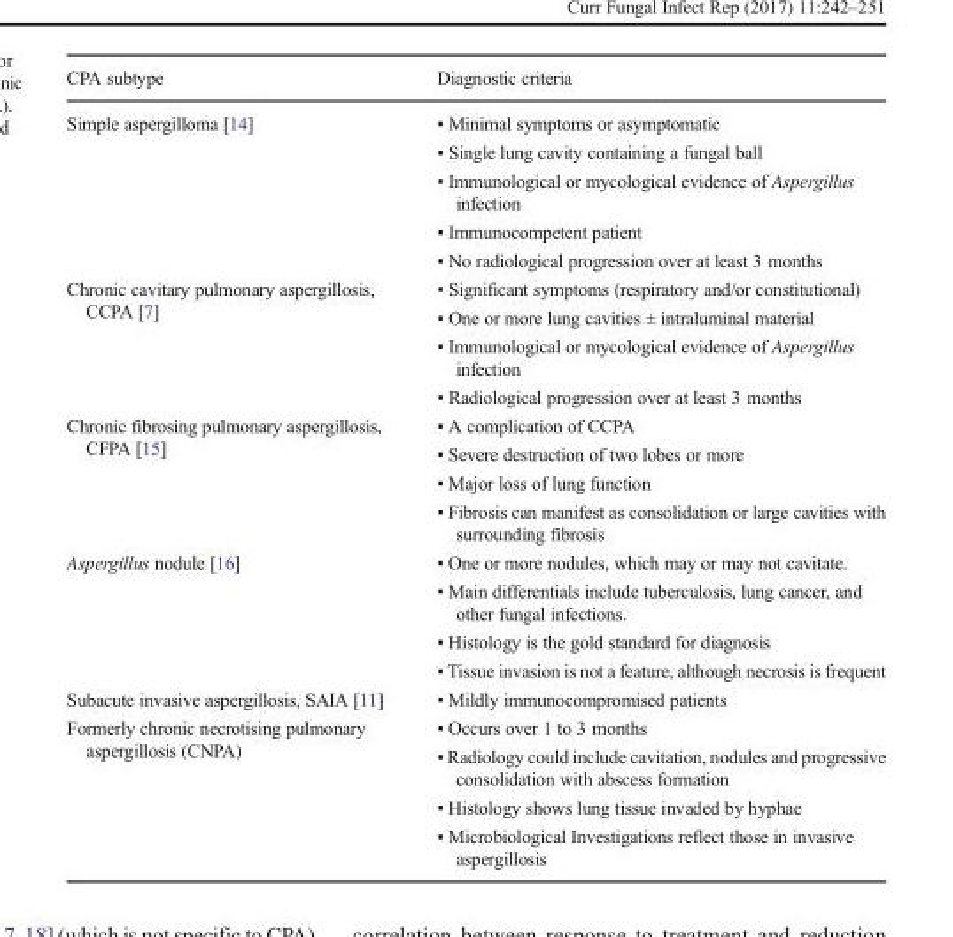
<table><thead><tr><td>CPA subtype</td><td>Diagnostic criteria</td></tr></thead><tbody><tr><td>Simple aspergilloma [14]</td><td>▪ Minimal symptoms or asymptomatic ▪ Single lung cavity containing a fungal ball ▪ Immunological or mycological evidence of Aspergillus infection ▪ Immunocompetent patient ▪ No radiological progression over at least 3 months</td></tr><tr><td>Chronic cavitary pulmonary aspergillosis, CCPA [7]</td><td>▪ Significant symptoms (respiratory and/or constitutional) ▪ One or more lung cavities ± intraluminal material ▪ Immunological or mycological evidence of Aspergillus infection ▪ Radiological progression over at least 3 months</td></tr><tr><td>Chronic fibrosing pulmonary aspergillosis, CFPA [15]</td><td>▪ A complication of CCPA ▪ Severe destruction of two lobes or more ▪ Major loss of lung function ▪ Fibrosis can manifest as consolidation or large cavities with surrounding fibrosis</td></tr><tr><td>Aspergillus nodule [16]</td><td>▪ One or more nodules, which may or may not cavitate. ▪ Main differentials include tuberculosis, lung cancer, and other fungal infections. ▪ Histology is the gold standard for diagnosis ▪ Tissue invasion is not a feature, although necrosis is frequent</td></tr><tr><td>Subacute invasive aspergillosis, SAIA [11] Formerly chronic necrotising pulmonary aspergillosis (CNPA)</td><td>▪ Mildly immunocompromised patients ▪ Occurs over 1 to 3 months ▪ Radiology could include cavitation, nodules and progressive consolidation with abscess formation ▪ Histology shows lung tissue invaded by hyphae ▪ Microbiological Investigations reflect those in invasive aspergillosis</td></tr></tbody></table>